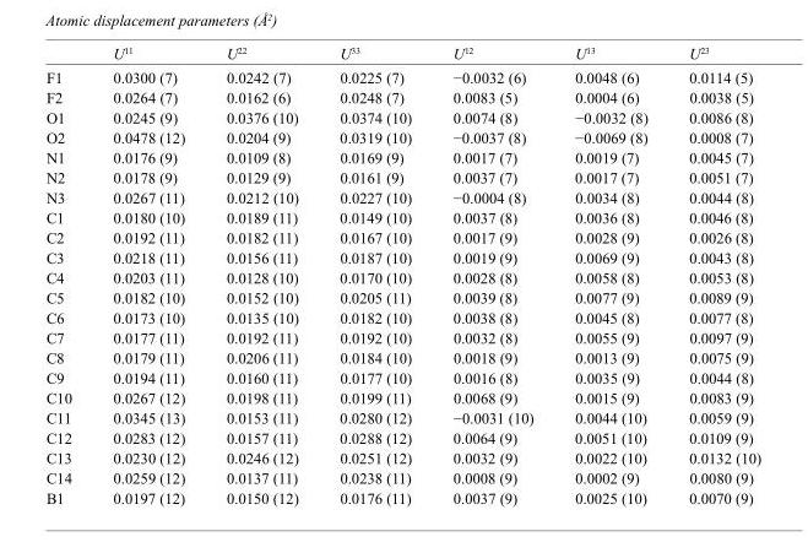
<table><thead><tr><td></td><td>U<sup>11</sup></td><td>U<sup>22</sup></td><td>U<sup>33</sup></td><td>U<sup>12</sup></td><td>U<sup>13</sup></td><td>U<sup>23</sup></td></tr></thead><tbody><tr><td>F1</td><td>0.0300 (7)</td><td>0.0242 (7)</td><td>0.0225 (7)</td><td>−0.0032 (6)</td><td>0.0048 (6)</td><td>0.0114 (5)</td></tr><tr><td>F2</td><td>0.0264 (7)</td><td>0.0162 (6)</td><td>0.0248 (7)</td><td>0.0083 (5)</td><td>0.0004 (6)</td><td>0.0038 (5)</td></tr><tr><td>O1</td><td>0.0245 (9)</td><td>0.0376 (10)</td><td>0.0374 (10)</td><td>0.0074 (8)</td><td>−0.0032 (8)</td><td>0.0086 (8)</td></tr><tr><td>O2</td><td>0.0478 (12)</td><td>0.0204 (9)</td><td>0.0319 (10)</td><td>−0.0037 (8)</td><td>−0.0069 (8)</td><td>0.0008 (7)</td></tr><tr><td>N1</td><td>0.0176 (9)</td><td>0.0109 (8)</td><td>0.0169 (9)</td><td>0.0017 (7)</td><td>0.0019 (7)</td><td>0.0045 (7)</td></tr><tr><td>N2</td><td>0.0178 (9)</td><td>0.0129 (9)</td><td>0.0161 (9)</td><td>0.0037 (7)</td><td>0.0017 (7)</td><td>0.0051 (7)</td></tr><tr><td>N3</td><td>0.0267 (11)</td><td>0.0212 (10)</td><td>0.0227 (10)</td><td>−0.0004 (8)</td><td>0.0034 (8)</td><td>0.0044 (8)</td></tr><tr><td>C1</td><td>0.0180 (10)</td><td>0.0189 (11)</td><td>0.0149 (10)</td><td>0.0037 (8)</td><td>0.0036 (8)</td><td>0.0046 (8)</td></tr><tr><td>C2</td><td>0.0192 (11)</td><td>0.0182 (11)</td><td>0.0167 (10)</td><td>0.0017 (9)</td><td>0.0028 (9)</td><td>0.0026 (8)</td></tr><tr><td>C3</td><td>0.0218 (11)</td><td>0.0156 (11)</td><td>0.0187 (10)</td><td>0.0019 (9)</td><td>0.0069 (9)</td><td>0.0043 (8)</td></tr><tr><td>C4</td><td>0.0203 (11)</td><td>0.0128 (10)</td><td>0.0170 (10)</td><td>0.0028 (8)</td><td>0.0058 (8)</td><td>0.0053 (8)</td></tr><tr><td>C5</td><td>0.0182 (10)</td><td>0.0152 (10)</td><td>0.0205 (11)</td><td>0.0039 (8)</td><td>0.0077 (9)</td><td>0.0089 (9)</td></tr><tr><td>C6</td><td>0.0173 (10)</td><td>0.0135 (10)</td><td>0.0182 (10)</td><td>0.0038 (8)</td><td>0.0045 (8)</td><td>0.0077 (8)</td></tr><tr><td>C7</td><td>0.0177 (11)</td><td>0.0192 (11)</td><td>0.0192 (10)</td><td>0.0032 (8)</td><td>0.0055 (9)</td><td>0.0097 (9)</td></tr><tr><td>C8</td><td>0.0179 (11)</td><td>0.0206 (11)</td><td>0.0184 (10)</td><td>0.0018 (9)</td><td>0.0013 (9)</td><td>0.0075 (9)</td></tr><tr><td>C9</td><td>0.0194 (11)</td><td>0.0160 (11)</td><td>0.0177 (10)</td><td>0.0016 (8)</td><td>0.0035 (9)</td><td>0.0044 (8)</td></tr><tr><td>C10</td><td>0.0267 (12)</td><td>0.0198 (11)</td><td>0.0199 (11)</td><td>0.0068 (9)</td><td>0.0015 (9)</td><td>0.0083 (9)</td></tr><tr><td>C11</td><td>0.0345 (13)</td><td>0.0153 (11)</td><td>0.0280 (12)</td><td>−0.0031 (10)</td><td>0.0044 (10)</td><td>0.0059 (9)</td></tr><tr><td>C12</td><td>0.0283 (12)</td><td>0.0157 (11)</td><td>0.0288 (12)</td><td>0.0064 (9)</td><td>0.0051 (10)</td><td>0.0109 (9)</td></tr><tr><td>C13</td><td>0.0230 (12)</td><td>0.0246 (12)</td><td>0.0251 (12)</td><td>0.0032 (9)</td><td>0.0022 (10)</td><td>0.0132 (10)</td></tr><tr><td>C14</td><td>0.0259 (12)</td><td>0.0137 (11)</td><td>0.0238 (11)</td><td>0.0008 (9)</td><td>0.0002 (9)</td><td>0.0080 (9)</td></tr><tr><td>B1</td><td>0.0197 (12)</td><td>0.0150 (12)</td><td>0.0176 (11)</td><td>0.0037 (9)</td><td>0.0025 (10)</td><td>0.0070 (9)</td></tr></tbody></table>